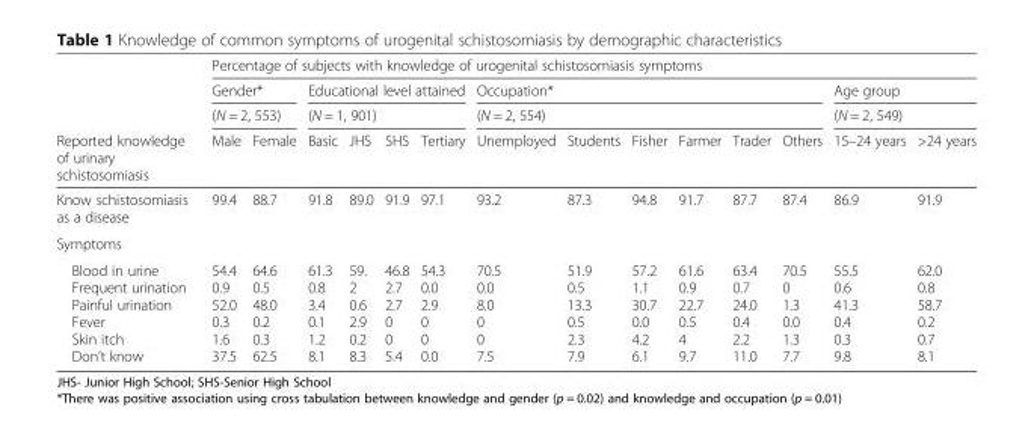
<table><thead><tr><td rowspan="4">Reported knowledge of urinary schistosomiasis</td><td colspan="14">Percentage of subjects with knowledge of urogenital schistosomiasis symptoms</td></tr><tr><td rowspan="2" colspan="2">Gender* (N = 2, 553)</td><td rowspan="2" colspan="4">Educational level attained (N = 1, 901)</td><td rowspan="2" colspan="6">Occupation* (N = 2, 554)</td><td rowspan="2" colspan="2">Age group (N = 2, 549)</td></tr><tr></tr><tr><td>Male</td><td>Female</td><td>Basic</td><td>JHS</td><td>SHS</td><td>Tertiary</td><td>Unemployed</td><td>Students</td><td>Fisher</td><td>Farmer</td><td>Trader</td><td>Others</td><td>15–24 years</td><td>&gt;24 years</td></tr></thead><tbody><tr><td>Know schistosomiasis as a disease</td><td>99.4</td><td>88.7</td><td>91.8</td><td>89.0</td><td>91.9</td><td>97.1</td><td>93.2</td><td>87.3</td><td>94.8</td><td>91.7</td><td>87.7</td><td>87.4</td><td>86.9</td><td>91.9</td></tr><tr><td colspan="15">Symptoms</td></tr><tr><td>Blood in urine Frequent urination Painful urination Fever Skin itch Don’t know</td><td>54.4 0.9 52.0 0.3 1.6 37.5</td><td>64.6 0.5 48.0 0.2 0.3 62.5</td><td>61.3 0.8 3.4 0.1 1.2 8.1</td><td>59. 2 0.6 2.9 0.2 8.3</td><td>46.8 2.7 2.7 0 0 5.4</td><td>54.3 0.0 2.9 0 0 0.0</td><td>70.5 0.0 8.0 0 0 7.5</td><td>51.9 0.5 13.3 0.5 2.3 7.9</td><td>57.2 1.1 30.7 0.0 4.2 6.1</td><td>61.6 0.9 22.7 0.5 4 9.7</td><td>63.4 0.7 24.0 0.4 2.2 11.0</td><td>70.5 0 1.3 0.0 1.3 7.7</td><td>55.5 0.6 41.3 0.4 0.3 9.8</td><td>62.0 0.8 58.7 0.2 0.7 8.1</td></tr></tbody></table>